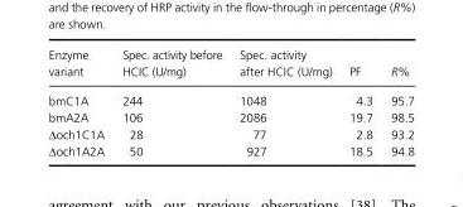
<table><thead><tr><td>Enzyme variant</td><td>Spec. activity before HCIC (U/mg)</td><td>Spec. activity after HCIC (U/mg)</td><td>PF</td><td>R%</td></tr></thead><tbody><tr><td>bmC1A</td><td>244</td><td>1048</td><td>4.3</td><td>95.7</td></tr><tr><td>bmA2A</td><td>106</td><td>2086</td><td>19.7</td><td>98.5</td></tr><tr><td>Δoch1C1A</td><td>28</td><td>77</td><td>2.8</td><td>93.2</td></tr><tr><td>Δoch1A2A</td><td>50</td><td>927</td><td>18.5</td><td>94.8</td></tr></tbody></table>